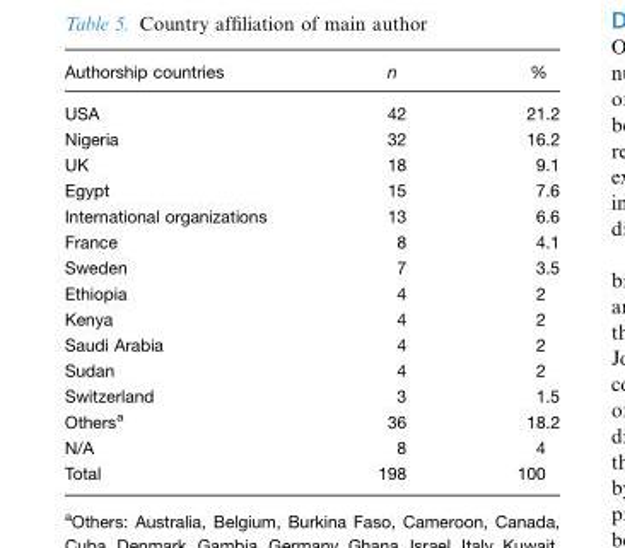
<table><thead><tr><td>Authorship countries</td><td>n</td><td>%</td></tr></thead><tbody><tr><td>USA</td><td>42</td><td>21.2</td></tr><tr><td>Nigeria</td><td>32</td><td>16.2</td></tr><tr><td>UK</td><td>18</td><td>9.1</td></tr><tr><td>Egypt</td><td>15</td><td>7.6</td></tr><tr><td>International organizations</td><td>13</td><td>6.6</td></tr><tr><td>France</td><td>8</td><td>4.1</td></tr><tr><td>Sweden</td><td>7</td><td>3.5</td></tr><tr><td>Ethiopia</td><td>4</td><td>2</td></tr><tr><td>Kenya</td><td>4</td><td>2</td></tr><tr><td>Saudi Arabia</td><td>4</td><td>2</td></tr><tr><td>Sudan</td><td>4</td><td>2</td></tr><tr><td>Switzerland</td><td>3</td><td>1.5</td></tr><tr><td>Others<sup>a</sup></td><td>36</td><td>18.2</td></tr><tr><td>N/A</td><td>8</td><td>4</td></tr><tr><td>Total</td><td>198</td><td>100</td></tr></tbody></table>